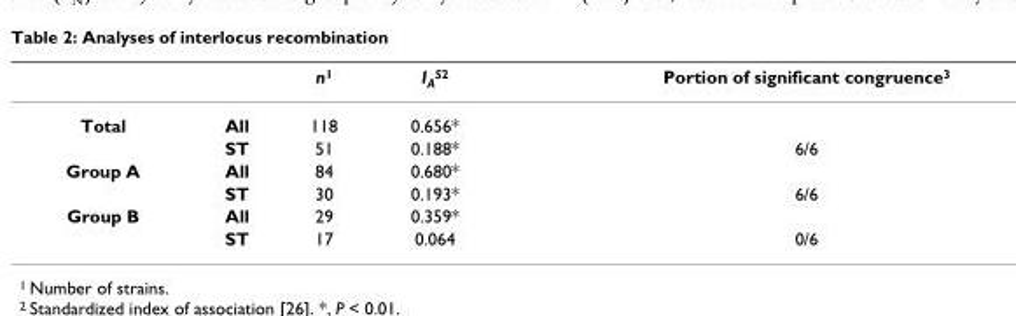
<table><thead><tr><td></td><td></td><td>n<sup>1</sup></td><td>I<sub>A</sub><sup>S2</sup></td><td>Portion of significant congruence<sup>3</sup></td></tr></thead><tbody><tr><td rowspan="2">Total</td><td>All</td><td>118</td><td>0.656*</td><td></td></tr><tr><td>ST</td><td>51</td><td>0.188*</td><td>6/6</td></tr><tr><td rowspan="2">Group A</td><td>All</td><td>84</td><td>0.680*</td><td></td></tr><tr><td>ST</td><td>30</td><td>0.193*</td><td>6/6</td></tr><tr><td rowspan="2">Group B</td><td>All</td><td>29</td><td>0.359*</td><td></td></tr><tr><td>ST</td><td>17</td><td>0.064</td><td>0/6</td></tr></tbody></table>